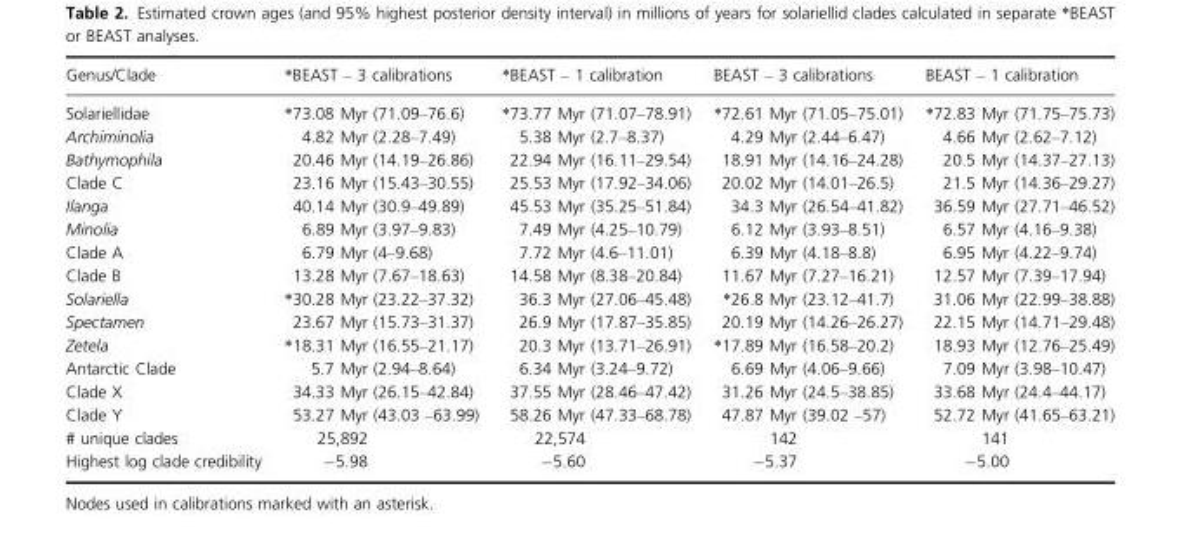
<table><thead><tr><td>Genus/Clade</td><td>*BEAST – 3 calibrations</td><td>*BEAST – 1 calibration</td><td>BEAST – 3 calibrations</td><td>BEAST – 1 calibration</td></tr></thead><tbody><tr><td>Solariellidae</td><td>*73.08 Myr (71.09–76.6)</td><td>*73.77 Myr (71.07–78.91)</td><td>*72.61 Myr (71.05–75.01)</td><td>*72.83 Myr (71.75–75.73)</td></tr><tr><td>Archiminolia</td><td>4.82 Myr (2.28–7.49)</td><td>5.38 Myr (2.7–8.37)</td><td>4.29 Myr (2.44–6.47)</td><td>4.66 Myr (2.62–7.12)</td></tr><tr><td>Bathymophila</td><td>20.46 Myr (14.19–26.86)</td><td>22.94 Myr (16.11–29.54)</td><td>18.91 Myr (14.16–24.28)</td><td>20.5 Myr (14.37–27.13)</td></tr><tr><td>Clade C</td><td>23.16 Myr (15.43–30.55)</td><td>25.53 Myr (17.92–34.06)</td><td>20.02 Myr (14.01–26.5)</td><td>21.5 Myr (14.36–29.27)</td></tr><tr><td>Ilanga</td><td>40.14 Myr (30.9–49.89)</td><td>45.53 Myr (35.25–51.84)</td><td>34.3 Myr (26.54–41.82)</td><td>36.59 Myr (27.71–46.52)</td></tr><tr><td>Minolia</td><td>6.89 Myr (3.97–9.83)</td><td>7.49 Myr (4.25–10.79)</td><td>6.12 Myr (3.93–8.51)</td><td>6.57 Myr (4.16–9.38)</td></tr><tr><td>Clade A</td><td>6.79 Myr (4–9.68)</td><td>7.72 Myr (4.6–11.01)</td><td>6.39 Myr (4.18–8.8)</td><td>6.95 Myr (4.22–9.74)</td></tr><tr><td>Clade B</td><td>13.28 Myr (7.67–18.63)</td><td>14.58 Myr (8.38–20.84)</td><td>11.67 Myr (7.27–16.21)</td><td>12.57 Myr (7.39–17.94)</td></tr><tr><td>Solariella</td><td>*30.28 Myr (23.22–37.32)</td><td>36.3 Myr (27.06–45.48)</td><td>*26.8 Myr (23.12–41.7)</td><td>31.06 Myr (22.99–38.88)</td></tr><tr><td>Spectamen</td><td>23.67 Myr (15.73–31.37)</td><td>26.9 Myr (17.87–35.85)</td><td>20.19 Myr (14.26–26.27)</td><td>22.15 Myr (14.71–29.48)</td></tr><tr><td>Zetela</td><td>*18.31 Myr (16.55–21.17)</td><td>20.3 Myr (13.71–26.91)</td><td>*17.89 Myr (16.58–20.2)</td><td>18.93 Myr (12.76–25.49)</td></tr><tr><td>Antarctic Clade</td><td>5.7 Myr (2.94–8.64)</td><td>6.34 Myr (3.24–9.72)</td><td>6.69 Myr (4.06–9.66)</td><td>7.09 Myr (3.98–10.47)</td></tr><tr><td>Clade X</td><td>34.33 Myr (26.15–42.84)</td><td>37.55 Myr (28.46–47.42)</td><td>31.26 Myr (24.5–38.85)</td><td>33.68 Myr (24.4–44.17)</td></tr><tr><td>Clade Y</td><td>53.27 Myr (43.03 –63.99)</td><td>58.26 Myr (47.33–68.78)</td><td>47.87 Myr (39.02 –57)</td><td>52.72 Myr (41.65–63.21)</td></tr><tr><td># unique clades</td><td>25,892</td><td>22,574</td><td>142</td><td>141</td></tr><tr><td>Highest log clade credibility</td><td>−5.98</td><td>−5.60</td><td>−5.37</td><td>−5.00</td></tr></tbody></table>